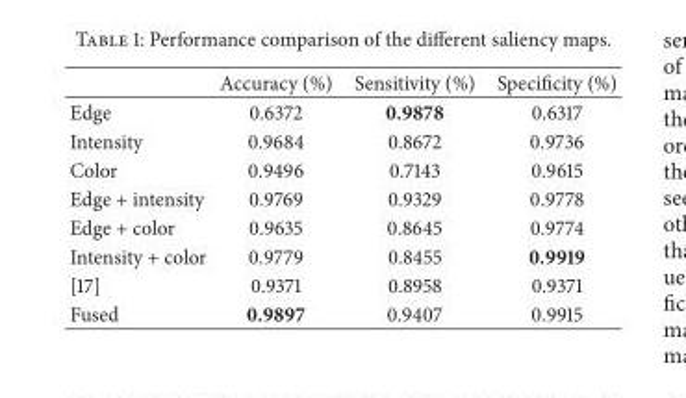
<table><thead><tr><td></td><td>Accuracy (%)</td><td>Sensitivity (%)</td><td>Specificity (%)</td></tr></thead><tbody><tr><td>Edge</td><td>0.6372</td><td>0.9878</td><td>0.6317</td></tr><tr><td>Intensity</td><td>0.9684</td><td>0.8672</td><td>0.9736</td></tr><tr><td>Color</td><td>0.9496</td><td>0.7143</td><td>0.9615</td></tr><tr><td>Edge + intensity</td><td>0.9769</td><td>0.9329</td><td>0.9778</td></tr><tr><td>Edge + color</td><td>0.9635</td><td>0.8645</td><td>0.9774</td></tr><tr><td>Intensity + color</td><td>0.9779</td><td>0.8455</td><td>0.9919</td></tr><tr><td>[17]</td><td>0.9371</td><td>0.8958</td><td>0.9371</td></tr><tr><td>Fused</td><td>0.9897</td><td>0.9407</td><td>0.9915</td></tr></tbody></table>